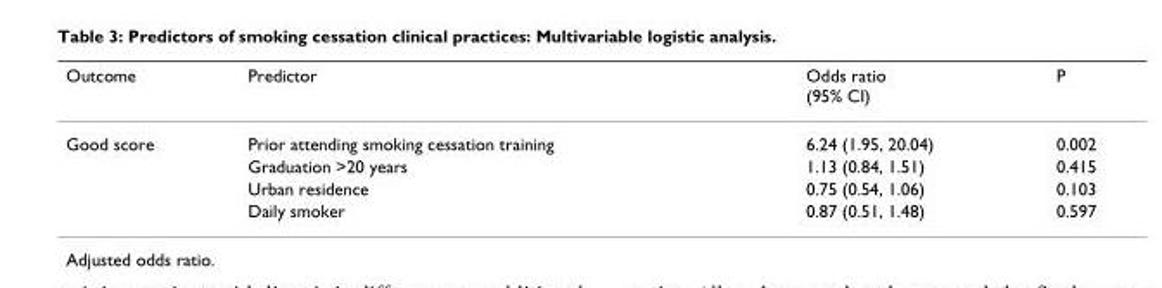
<table><thead><tr><td>Outcome</td><td>Predictor</td><td>Odds ratio (95% CI)</td><td>P</td></tr></thead><tbody><tr><td rowspan="4">Good score</td><td>Prior attending smoking cessation training</td><td>6.24 (1.95, 20.04)</td><td>0.002</td></tr><tr><td>Graduation &gt;20 years</td><td>1.13 (0.84, 1.51)</td><td>0.415</td></tr><tr><td>Urban residence</td><td>0.75 (0.54, 1.06)</td><td>0.103</td></tr><tr><td>Daily smoker</td><td>0.87 (0.51, 1.48)</td><td>0.597</td></tr></tbody></table>